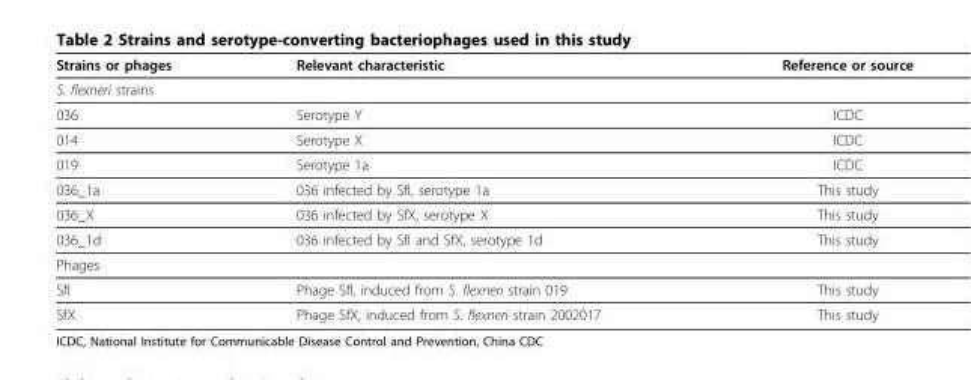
<table><thead><tr><td>Strains or phages</td><td>Relevant characteristic</td><td>Reference or source</td></tr></thead><tbody><tr><td colspan="3">S. flexneri strains</td></tr><tr><td>036</td><td>Serotype Y</td><td>ICDC</td></tr><tr><td>014</td><td>Serotype X</td><td>ICDC</td></tr><tr><td>019</td><td>Serotype 1a</td><td>ICDC</td></tr><tr><td>036_1a</td><td>036 infected by SfI, serotype 1a</td><td>This study</td></tr><tr><td>036_X</td><td>036 infected by SfX, serotype X</td><td>This study</td></tr><tr><td>036_1d</td><td>036 infected by SfI and SfX, serotype 1d</td><td>This study</td></tr><tr><td colspan="3">Phages</td></tr><tr><td>SfI</td><td>Phage SfI, induced from S. flexneri strain 019</td><td>This study</td></tr><tr><td>SfX</td><td>Phage SfX, induced from S. flexneri strain 2002017</td><td>This study</td></tr></tbody></table>